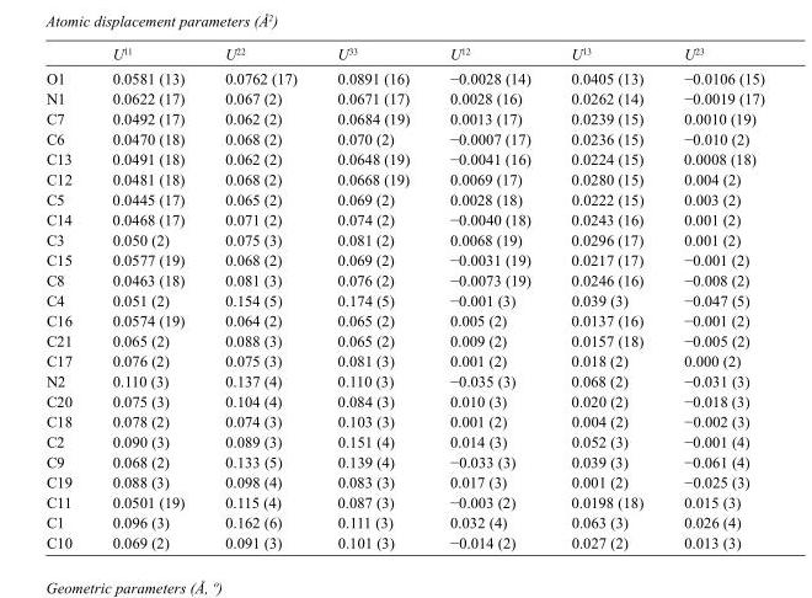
<table><thead><tr><td></td><td>U<sup>11</sup></td><td>U<sup>22</sup></td><td>U<sup>33</sup></td><td>U<sup>12</sup></td><td>U<sup>13</sup></td><td>U<sup>23</sup></td></tr></thead><tbody><tr><td>O1</td><td>0.0581 (13)</td><td>0.0762 (17)</td><td>0.0891 (16)</td><td>−0.0028 (14)</td><td>0.0405 (13)</td><td>−0.0106 (15)</td></tr><tr><td>N1</td><td>0.0622 (17)</td><td>0.067 (2)</td><td>0.0671 (17)</td><td>0.0028 (16)</td><td>0.0262 (14)</td><td>−0.0019 (17)</td></tr><tr><td>C7</td><td>0.0492 (17)</td><td>0.062 (2)</td><td>0.0684 (19)</td><td>0.0013 (17)</td><td>0.0239 (15)</td><td>0.0010 (19)</td></tr><tr><td>C6</td><td>0.0470 (18)</td><td>0.068 (2)</td><td>0.070 (2)</td><td>−0.0007 (17)</td><td>0.0236 (15)</td><td>−0.010 (2)</td></tr><tr><td>C13</td><td>0.0491 (18)</td><td>0.062 (2)</td><td>0.0648 (19)</td><td>−0.0041 (16)</td><td>0.0224 (15)</td><td>0.0008 (18)</td></tr><tr><td>C12</td><td>0.0481 (18)</td><td>0.068 (2)</td><td>0.0668 (19)</td><td>0.0069 (17)</td><td>0.0280 (15)</td><td>0.004 (2)</td></tr><tr><td>C5</td><td>0.0445 (17)</td><td>0.065 (2)</td><td>0.069 (2)</td><td>0.0028 (18)</td><td>0.0222 (15)</td><td>0.003 (2)</td></tr><tr><td>C14</td><td>0.0468 (17)</td><td>0.071 (2)</td><td>0.074 (2)</td><td>−0.0040 (18)</td><td>0.0243 (16)</td><td>0.001 (2)</td></tr><tr><td>C3</td><td>0.050 (2)</td><td>0.075 (3)</td><td>0.081 (2)</td><td>0.0068 (19)</td><td>0.0296 (17)</td><td>0.001 (2)</td></tr><tr><td>C15</td><td>0.0577 (19)</td><td>0.068 (2)</td><td>0.069 (2)</td><td>−0.0031 (19)</td><td>0.0217 (17)</td><td>−0.001 (2)</td></tr><tr><td>C8</td><td>0.0463 (18)</td><td>0.081 (3)</td><td>0.076 (2)</td><td>−0.0073 (19)</td><td>0.0246 (16)</td><td>−0.008 (2)</td></tr><tr><td>C4</td><td>0.051 (2)</td><td>0.154 (5)</td><td>0.174 (5)</td><td>−0.001 (3)</td><td>0.039 (3)</td><td>−0.047 (5)</td></tr><tr><td>C16</td><td>0.0574 (19)</td><td>0.064 (2)</td><td>0.065 (2)</td><td>0.005 (2)</td><td>0.0137 (16)</td><td>−0.001 (2)</td></tr><tr><td>C21</td><td>0.065 (2)</td><td>0.088 (3)</td><td>0.065 (2)</td><td>0.009 (2)</td><td>0.0157 (18)</td><td>−0.005 (2)</td></tr><tr><td>C17</td><td>0.076 (2)</td><td>0.075 (3)</td><td>0.081 (3)</td><td>0.001 (2)</td><td>0.018 (2)</td><td>0.000 (2)</td></tr><tr><td>N2</td><td>0.110 (3)</td><td>0.137 (4)</td><td>0.110 (3)</td><td>−0.035 (3)</td><td>0.068 (2)</td><td>−0.031 (3)</td></tr><tr><td>C20</td><td>0.075 (3)</td><td>0.104 (4)</td><td>0.084 (3)</td><td>0.010 (3)</td><td>0.020 (2)</td><td>−0.018 (3)</td></tr><tr><td>C18</td><td>0.078 (2)</td><td>0.074 (3)</td><td>0.103 (3)</td><td>0.001 (2)</td><td>0.004 (2)</td><td>−0.002 (3)</td></tr><tr><td>C2</td><td>0.090 (3)</td><td>0.089 (3)</td><td>0.151 (4)</td><td>0.014 (3)</td><td>0.052 (3)</td><td>−0.001 (4)</td></tr><tr><td>C9</td><td>0.068 (2)</td><td>0.133 (5)</td><td>0.139 (4)</td><td>−0.033 (3)</td><td>0.039 (3)</td><td>−0.061 (4)</td></tr><tr><td>C19</td><td>0.088 (3)</td><td>0.098 (4)</td><td>0.083 (3)</td><td>0.017 (3)</td><td>0.001 (2)</td><td>−0.025 (3)</td></tr><tr><td>C11</td><td>0.0501 (19)</td><td>0.115 (4)</td><td>0.087 (3)</td><td>−0.003 (2)</td><td>0.0198 (18)</td><td>0.015 (3)</td></tr><tr><td>C1</td><td>0.096 (3)</td><td>0.162 (6)</td><td>0.111 (3)</td><td>0.032 (4)</td><td>0.063 (3)</td><td>0.026 (4)</td></tr><tr><td>C10</td><td>0.069 (2)</td><td>0.091 (3)</td><td>0.101 (3)</td><td>−0.014 (2)</td><td>0.027 (2)</td><td>0.013 (3)</td></tr></tbody></table>